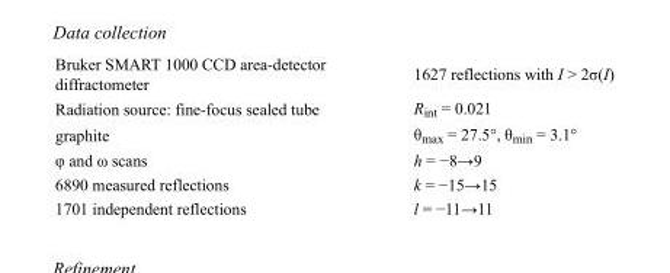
<table><tbody><tr><td>Bruker SMART 1000 CCD area-detector diffractometer</td><td>1627 reflections with I &gt; 2σ(I)</td></tr><tr><td>Radiation source: fine-focus sealed tube</td><td>R<sub>int</sub> = 0.021</td></tr><tr><td>graphite</td><td>θ<sub>max</sub> = 27.5°, θ<sub>min</sub> = 3.1°</td></tr><tr><td>φ and ω scans</td><td>h = −8→9</td></tr><tr><td>6890 measured reflections</td><td>k = −15→15</td></tr><tr><td>1701 independent reflections</td><td>l = −11→11</td></tr></tbody></table>